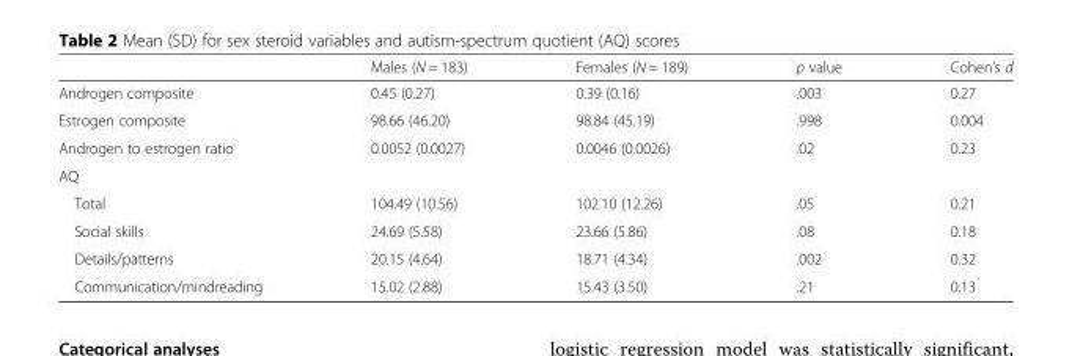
<table><thead><tr><td></td><td>Males (N = 183)</td><td>Females (N = 189)</td><td>p value</td><td>Cohen’s d</td></tr></thead><tbody><tr><td>Androgen composite</td><td>0.45 (0.27)</td><td>0.39 (0.16)</td><td>.003</td><td>0.27</td></tr><tr><td>Estrogen composite</td><td>98.66 (46.20)</td><td>98.84 (45.19)</td><td>.998</td><td>0.004</td></tr><tr><td>Androgen to estrogen ratio</td><td>0.0052 (0.0027)</td><td>0.0046 (0.0026)</td><td>.02</td><td>0.23</td></tr><tr><td colspan="5">AQ</td></tr><tr><td>Total</td><td>104.49 (10.56)</td><td>102.10 (12.26)</td><td>.05</td><td>0.21</td></tr><tr><td>Social skills</td><td>24.69 (5.58)</td><td>23.66 (5.86)</td><td>.08</td><td>0.18</td></tr><tr><td>Details/patterns</td><td>20.15 (4.64)</td><td>18.71 (4.34)</td><td>.002</td><td>0.32</td></tr><tr><td>Communication/mindreading</td><td>15.02 (2.88)</td><td>15.43 (3.50)</td><td>.21</td><td>0.13</td></tr></tbody></table>